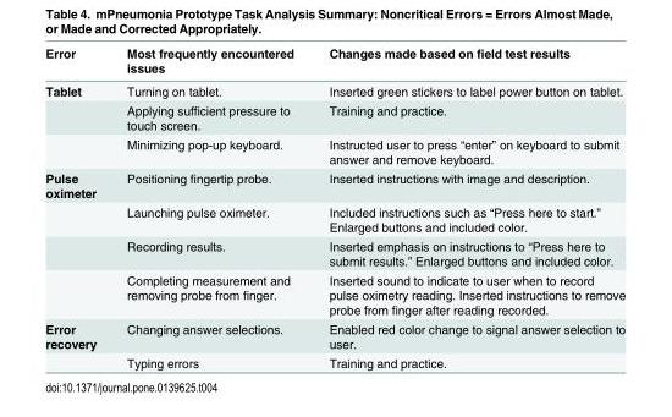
<table><thead><tr><td>Error</td><td>Most frequently encountered issues</td><td>Changes made based on field test results</td></tr></thead><tbody><tr><td rowspan="3">Tablet</td><td>Turning on tablet.</td><td>Inserted green stickers to label power button on tablet.</td></tr><tr><td>Applying sufficient pressure to touch screen.</td><td>Training and practice.</td></tr><tr><td>Minimizing pop-up keyboard.</td><td>Instructed user to press “enter” on keyboard to submit answer and remove keyboard.</td></tr><tr><td rowspan="4">Pulse oximeter</td><td>Positioning fingertip probe.</td><td>Inserted instructions with image and description.</td></tr><tr><td>Launching pulse oximeter.</td><td>Included instructions such as “Press here to start.” Enlarged buttons and included color.</td></tr><tr><td>Recording results.</td><td>Inserted emphasis on instructions to “Press here to submit results.” Enlarged buttons and included color.</td></tr><tr><td>Completing measurement and removing probe from finger.</td><td>Inserted sound to indicate to user when to record pulse oximetry reading. Inserted instructions to remove probe from finger after reading recorded.</td></tr><tr><td rowspan="2">Error recovery</td><td>Changing answer selections.</td><td>Enabled red color change to signal answer selection to user.</td></tr><tr><td>Typing errors</td><td>Training and practice.</td></tr></tbody></table>